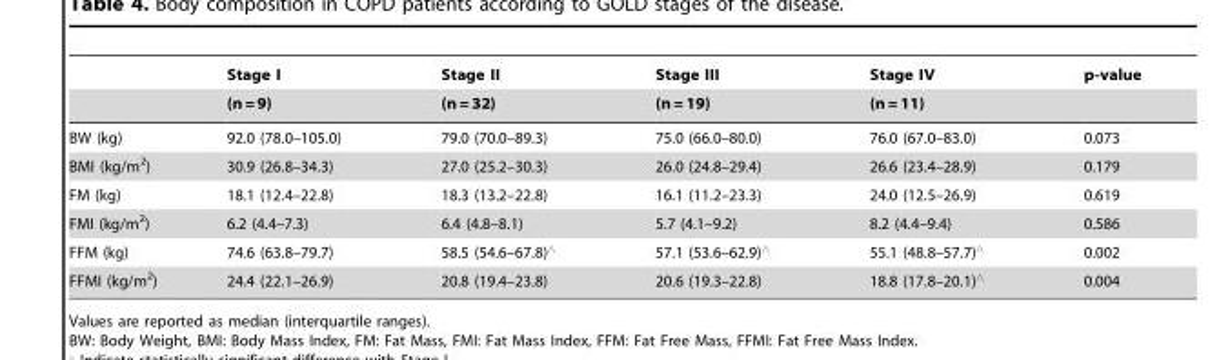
<table><thead><tr><td rowspan="2"></td><td rowspan="2">Stage I (n = 9)</td><td rowspan="2">Stage II (n = 32)</td><td rowspan="2">Stage III (n = 19)</td><td rowspan="2">Stage IV (n = 11)</td><td rowspan="2">p-value</td></tr><tr></tr></thead><tbody><tr><td>BW (kg)</td><td>92.0 (78.0–105.0)</td><td>79.0 (70.0–89.3)</td><td>75.0 (66.0–80.0)</td><td>76.0 (67.0–83.0)</td><td>0.073</td></tr><tr><td>BMI (kg/m<sup>2</sup>)</td><td>30.9 (26.8–34.3)</td><td>27.0 (25.2–30.3)</td><td>26.0 (24.8–29.4)</td><td>26.6 (23.4–28.9)</td><td>0.179</td></tr><tr><td>FM (kg)</td><td>18.1 (12.4–22.8)</td><td>18.3 (13.2–22.8)</td><td>16.1 (11.2–23.3)</td><td>24.0 (12.5–26.9)</td><td>0.619</td></tr><tr><td>FMI (kg/m<sup>2</sup>)</td><td>6.2 (4.4–7.3)</td><td>6.4 (4.8–8.1)</td><td>5.7 (4.1–9.2)</td><td>8.2 (4.4–9.4)</td><td>0.586</td></tr><tr><td>FFM (kg)</td><td>74.6 (63.8–79.7)</td><td>58.5 (54.6–67.8)‘</td><td>57.1 (53.6–62.9)‘</td><td>55.1 (48.8–57.7)‘</td><td>0.002</td></tr><tr><td>FFMI (kg/m<sup>2</sup>)</td><td>24.4 (22.1–26.9)</td><td>20.8 (19.4–23.8)</td><td>20.6 (19.3–22.8)</td><td>18.8 (17.8–20.1)‘</td><td>0.004</td></tr></tbody></table>